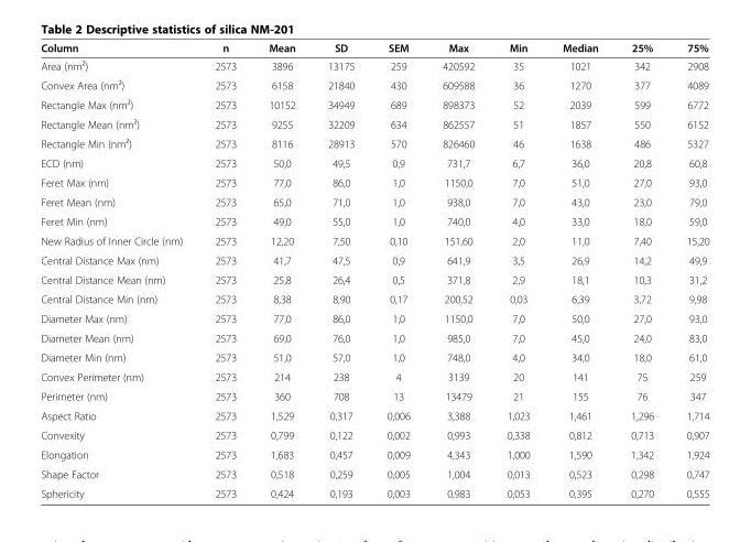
<table><thead><tr><td>Column</td><td>n</td><td>Mean</td><td>SD</td><td>SEM</td><td>Max</td><td>Min</td><td>Median</td><td>25%</td><td>75%</td></tr></thead><tbody><tr><td>Area (nm²)</td><td>2573</td><td>3896</td><td>13175</td><td>259</td><td>420592</td><td>35</td><td>1021</td><td>342</td><td>2908</td></tr><tr><td>Convex Area (nm²)</td><td>2573</td><td>6158</td><td>21840</td><td>430</td><td>609588</td><td>36</td><td>1270</td><td>377</td><td>4089</td></tr><tr><td>Rectangle Max (nm²)</td><td>2573</td><td>10152</td><td>34949</td><td>689</td><td>898373</td><td>52</td><td>2039</td><td>599</td><td>6772</td></tr><tr><td>Rectangle Mean (nm²)</td><td>2573</td><td>9255</td><td>32209</td><td>634</td><td>862557</td><td>51</td><td>1857</td><td>550</td><td>6152</td></tr><tr><td>Rectangle Min (nm²)</td><td>2573</td><td>8116</td><td>28913</td><td>570</td><td>826460</td><td>46</td><td>1638</td><td>486</td><td>5327</td></tr><tr><td>ECD (nm)</td><td>2573</td><td>50,0</td><td>49,5</td><td>0,9</td><td>731,7</td><td>6,7</td><td>36,0</td><td>20,8</td><td>60,8</td></tr><tr><td>Feret Max (nm)</td><td>2573</td><td>77,0</td><td>86,0</td><td>1,0</td><td>1150,0</td><td>7,0</td><td>51,0</td><td>27,0</td><td>93,0</td></tr><tr><td>Feret Mean (nm)</td><td>2573</td><td>65,0</td><td>71,0</td><td>1,0</td><td>938,0</td><td>7,0</td><td>43,0</td><td>23,0</td><td>79,0</td></tr><tr><td>Feret Min (nm)</td><td>2573</td><td>49,0</td><td>55,0</td><td>1,0</td><td>740,0</td><td>4,0</td><td>33,0</td><td>18,0</td><td>59,0</td></tr><tr><td>New Radius of Inner Circle (nm)</td><td>2573</td><td>12,20</td><td>7,50</td><td>0,10</td><td>151,60</td><td>2,0</td><td>11,0</td><td>7,40</td><td>15,20</td></tr><tr><td>Central Distance Max (nm)</td><td>2573</td><td>41,7</td><td>47,5</td><td>0,9</td><td>641,9</td><td>3,5</td><td>26,9</td><td>14,2</td><td>49,9</td></tr><tr><td>Central Distance Mean (nm)</td><td>2573</td><td>25,8</td><td>26,4</td><td>0,5</td><td>371,8</td><td>2,9</td><td>18,1</td><td>10,3</td><td>31,2</td></tr><tr><td>Central Distance Min (nm)</td><td>2573</td><td>8,38</td><td>8,90</td><td>0,17</td><td>200,52</td><td>0,03</td><td>6,39</td><td>3,72</td><td>9,98</td></tr><tr><td>Diameter Max (nm)</td><td>2573</td><td>77,0</td><td>86,0</td><td>1,0</td><td>1150,0</td><td>7,0</td><td>50,0</td><td>27,0</td><td>93,0</td></tr><tr><td>Diameter Mean (nm)</td><td>2573</td><td>69,0</td><td>76,0</td><td>1,0</td><td>985,0</td><td>7,0</td><td>45,0</td><td>24,0</td><td>83,0</td></tr><tr><td>Diameter Min (nm)</td><td>2573</td><td>51,0</td><td>57,0</td><td>1,0</td><td>748,0</td><td>4,0</td><td>34,0</td><td>18,0</td><td>61,0</td></tr><tr><td>Convex Perimeter (nm)</td><td>2573</td><td>214</td><td>238</td><td>4</td><td>3139</td><td>20</td><td>141</td><td>75</td><td>259</td></tr><tr><td>Perimeter (nm)</td><td>2573</td><td>360</td><td>708</td><td>13</td><td>13479</td><td>21</td><td>155</td><td>76</td><td>347</td></tr><tr><td>Aspect Ratio</td><td>2573</td><td>1,529</td><td>0,317</td><td>0,006</td><td>3,388</td><td>1,023</td><td>1,461</td><td>1,296</td><td>1,714</td></tr><tr><td>Convexity</td><td>2573</td><td>0,799</td><td>0,122</td><td>0,002</td><td>0,993</td><td>0,338</td><td>0,812</td><td>0,713</td><td>0,907</td></tr><tr><td>Elongation</td><td>2573</td><td>1,683</td><td>0,457</td><td>0,009</td><td>4,343</td><td>1,000</td><td>1,590</td><td>1,342</td><td>1,924</td></tr><tr><td>Shape Factor</td><td>2573</td><td>0,518</td><td>0,259</td><td>0,005</td><td>1,004</td><td>0,013</td><td>0,523</td><td>0,298</td><td>0,747</td></tr><tr><td>Sphericity</td><td>2573</td><td>0,424</td><td>0,193</td><td>0,003</td><td>0,983</td><td>0,053</td><td>0,395</td><td>0,270</td><td>0,555</td></tr></tbody></table>